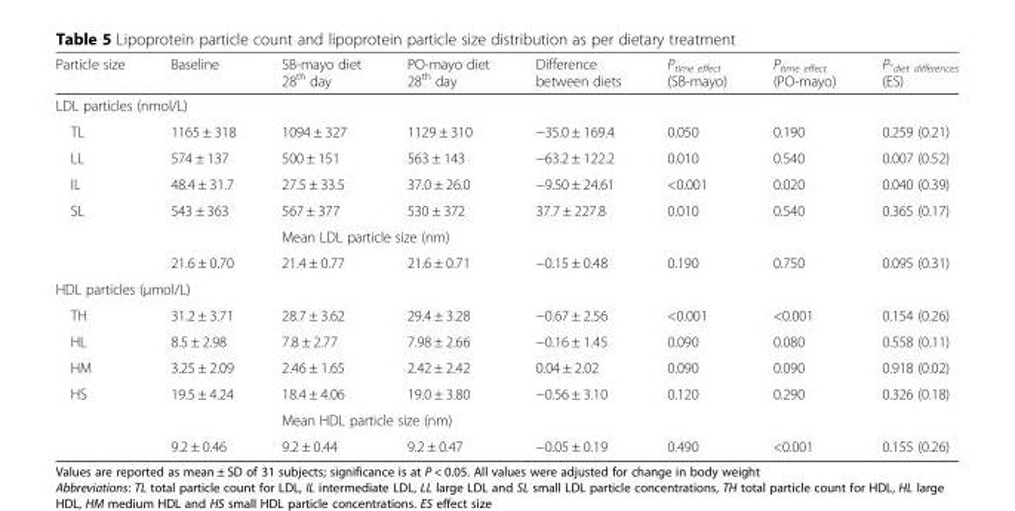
<table><thead><tr><td>Particle size</td><td>Baseline</td><td>SB-mayo diet 28<sup>th</sup> day</td><td>PO-mayo diet 28<sup>th</sup> day</td><td>Difference between diets</td><td>P<sub>time effect</sub> (SB-mayo)</td><td>P<sub>time effect</sub> (PO-mayo)</td><td>P-<sub>diet differences</sub> (ES)</td></tr></thead><tbody><tr><td colspan="8">LDL particles (nmol/L)</td></tr><tr><td>TL</td><td>1165 ± 318</td><td>1094 ± 327</td><td>1129 ± 310</td><td>−35.0 ± 169.4</td><td>0.050</td><td>0.190</td><td>0.259 (0.21)</td></tr><tr><td>LL</td><td>574 ± 137</td><td>500 ± 151</td><td>563 ± 143</td><td>−63.2 ± 122.2</td><td>0.010</td><td>0.540</td><td>0.007 (0.52)</td></tr><tr><td>IL</td><td>48.4 ± 31.7</td><td>27.5 ± 33.5</td><td>37.0 ± 26.0</td><td>−9.50 ± 24.61</td><td>&lt;0.001</td><td>0.020</td><td>0.040 (0.39)</td></tr><tr><td rowspan="3">SL</td><td>543 ± 363</td><td>567 ± 377</td><td>530 ± 372</td><td>37.7 ± 227.8</td><td>0.010</td><td>0.540</td><td>0.365 (0.17)</td></tr><tr><td></td><td colspan="6">Mean LDL particle size (nm)</td></tr><tr><td>21.6 ± 0.70</td><td>21.4 ± 0.77</td><td>21.6 ± 0.71</td><td>−0.15 ± 0.48</td><td>0.190</td><td>0.750</td><td>0.095 (0.31)</td></tr><tr><td colspan="8">HDL particles (μmol/L)</td></tr><tr><td>TH</td><td>31.2 ± 3.71</td><td>28.7 ± 3.62</td><td>29.4 ± 3.28</td><td>−0.67 ± 2.56</td><td>&lt;0.001</td><td>&lt;0.001</td><td>0.154 (0.26)</td></tr><tr><td>HL</td><td>8.5 ± 2.98</td><td>7.8 ± 2.77</td><td>7.98 ± 2.66</td><td>−0.16 ± 1.45</td><td>0.090</td><td>0.080</td><td>0.558 (0.11)</td></tr><tr><td>HM</td><td>3.25 ± 2.09</td><td>2.46 ± 1.65</td><td>2.42 ± 2.42</td><td>0.04 ± 2.02</td><td>0.090</td><td>0.090</td><td>0.918 (0.02)</td></tr><tr><td rowspan="3">HS</td><td>19.5 ± 4.24</td><td>18.4 ± 4.06</td><td>19.0 ± 3.80</td><td>−0.56 ± 3.10</td><td>0.120</td><td>0.290</td><td>0.326 (0.18)</td></tr><tr><td></td><td colspan="6">Mean HDL particle size (nm)</td></tr><tr><td>9.2 ± 0.46</td><td>9.2 ± 0.44</td><td>9.2 ± 0.47</td><td>−0.05 ± 0.19</td><td>0.490</td><td>&lt;0.001</td><td>0.155 (0.26)</td></tr></tbody></table>